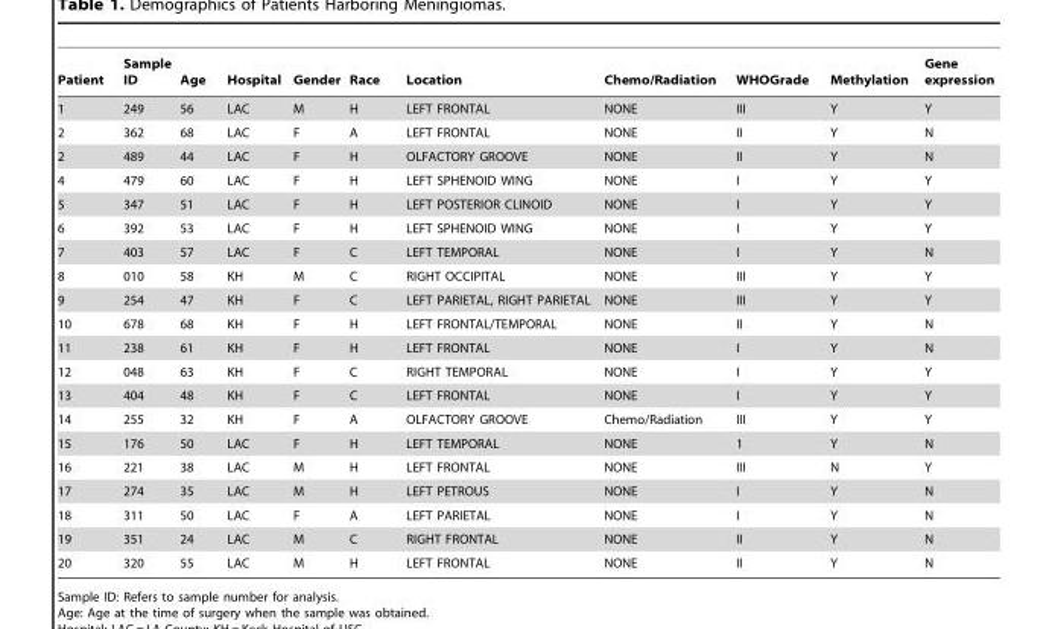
<table><thead><tr><td>Patient</td><td>Sample ID</td><td>Age</td><td>Hospital</td><td>Gender</td><td>Race</td><td>Location</td><td>Chemo/Radiation</td><td>WHOGrade</td><td>Methylation</td><td>Gene expression</td></tr></thead><tbody><tr><td>1</td><td>249</td><td>56</td><td>LAC</td><td>M</td><td>H</td><td>LEFT FRONTAL</td><td>NONE</td><td>III</td><td>Y</td><td>Y</td></tr><tr><td>2</td><td>362</td><td>68</td><td>LAC</td><td>F</td><td>A</td><td>LEFT FRONTAL</td><td>NONE</td><td>II</td><td>Y</td><td>N</td></tr><tr><td>2</td><td>489</td><td>44</td><td>LAC</td><td>F</td><td>H</td><td>OLFACTORY GROOVE</td><td>NONE</td><td>II</td><td>Y</td><td>N</td></tr><tr><td>4</td><td>479</td><td>60</td><td>LAC</td><td>F</td><td>H</td><td>LEFT SPHENOID WING</td><td>NONE</td><td>I</td><td>Y</td><td>Y</td></tr><tr><td>5</td><td>347</td><td>51</td><td>LAC</td><td>F</td><td>H</td><td>LEFT POSTERIOR CLINOID</td><td>NONE</td><td>I</td><td>Y</td><td>Y</td></tr><tr><td>6</td><td>392</td><td>53</td><td>LAC</td><td>F</td><td>H</td><td>LEFT SPHENOID WING</td><td>NONE</td><td>I</td><td>Y</td><td>Y</td></tr><tr><td>7</td><td>403</td><td>57</td><td>LAC</td><td>F</td><td>C</td><td>LEFT TEMPORAL</td><td>NONE</td><td>I</td><td>Y</td><td>N</td></tr><tr><td>8</td><td>010</td><td>58</td><td>KH</td><td>M</td><td>C</td><td>RIGHT OCCIPITAL</td><td>NONE</td><td>III</td><td>Y</td><td>Y</td></tr><tr><td>9</td><td>254</td><td>47</td><td>KH</td><td>F</td><td>C</td><td>LEFT PARIETAL, RIGHT PARIETAL</td><td>NONE</td><td>III</td><td>Y</td><td>Y</td></tr><tr><td>10</td><td>678</td><td>68</td><td>KH</td><td>F</td><td>H</td><td>LEFT FRONTAL/TEMPORAL</td><td>NONE</td><td>II</td><td>Y</td><td>N</td></tr><tr><td>11</td><td>238</td><td>61</td><td>KH</td><td>F</td><td>H</td><td>LEFT FRONTAL</td><td>NONE</td><td>I</td><td>Y</td><td>N</td></tr><tr><td>12</td><td>048</td><td>63</td><td>KH</td><td>F</td><td>C</td><td>RIGHT TEMPORAL</td><td>NONE</td><td>I</td><td>Y</td><td>Y</td></tr><tr><td>13</td><td>404</td><td>48</td><td>KH</td><td>F</td><td>C</td><td>LEFT FRONTAL</td><td>NONE</td><td>I</td><td>Y</td><td>Y</td></tr><tr><td>14</td><td>255</td><td>32</td><td>KH</td><td>F</td><td>A</td><td>OLFACTORY GROOVE</td><td>Chemo/Radiation</td><td>III</td><td>Y</td><td>Y</td></tr><tr><td>15</td><td>176</td><td>50</td><td>LAC</td><td>F</td><td>H</td><td>LEFT TEMPORAL</td><td>NONE</td><td>1</td><td>Y</td><td>N</td></tr><tr><td>16</td><td>221</td><td>38</td><td>LAC</td><td>M</td><td>H</td><td>LEFT FRONTAL</td><td>NONE</td><td>III</td><td>N</td><td>Y</td></tr><tr><td>17</td><td>274</td><td>35</td><td>LAC</td><td>M</td><td>H</td><td>LEFT PETROUS</td><td>NONE</td><td>I</td><td>Y</td><td>N</td></tr><tr><td>18</td><td>311</td><td>50</td><td>LAC</td><td>F</td><td>A</td><td>LEFT PARIETAL</td><td>NONE</td><td>I</td><td>Y</td><td>N</td></tr><tr><td>19</td><td>351</td><td>24</td><td>LAC</td><td>M</td><td>C</td><td>RIGHT FRONTAL</td><td>NONE</td><td>II</td><td>Y</td><td>N</td></tr><tr><td>20</td><td>320</td><td>55</td><td>LAC</td><td>M</td><td>H</td><td>LEFT FRONTAL</td><td>NONE</td><td>II</td><td>Y</td><td>N</td></tr></tbody></table>